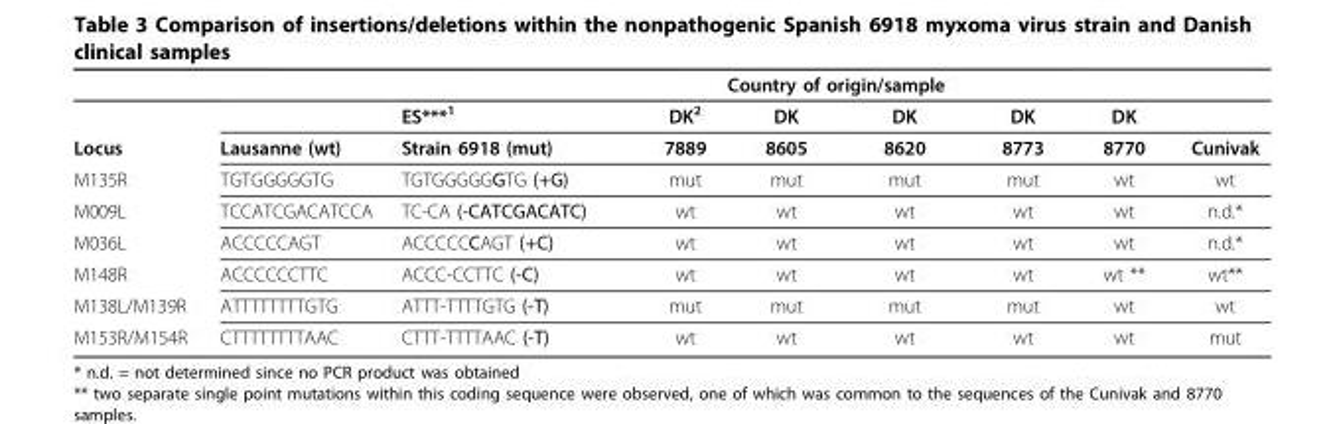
<table><thead><tr><td rowspan="2"></td><td rowspan="2"></td><td colspan="7">Country of origin/sample</td></tr><tr><td>ES***<sup>1</sup></td><td>DK<sup>2</sup></td><td>DK</td><td>DK</td><td>DK</td><td>DK</td><td></td></tr></thead><tbody><tr><td>Locus</td><td>Lausanne (wt)</td><td>Strain 6918 (mut)</td><td>7889</td><td>8605</td><td>8620</td><td>8773</td><td>8770</td><td>Cunivak</td></tr><tr><td>M135R</td><td>TGTGGGGGTG</td><td>TGTGGGGGGTG (+G)</td><td>mut</td><td>mut</td><td>mut</td><td>mut</td><td>wt</td><td>wt</td></tr><tr><td>M009L</td><td>TCCATCGACATCCA</td><td>TC-CA (-CATCGACATC)</td><td>wt</td><td>wt</td><td>wt</td><td>wt</td><td>wt</td><td>n.d.*</td></tr><tr><td>M036L</td><td>ACCCCCAGT</td><td>ACCCCCCAGT (+C)</td><td>wt</td><td>wt</td><td>wt</td><td>wt</td><td>wt</td><td>n.d.*</td></tr><tr><td>M148R</td><td>ACCCCCCTTC</td><td>ACCC-CCTTC (-C)</td><td>wt</td><td>wt</td><td>wt</td><td>wt</td><td>wt **</td><td>wt**</td></tr><tr><td>M138L/M139R</td><td>ATTTTTTTTGTG</td><td>ATTT-TTTTGTG (-T)</td><td>mut</td><td>mut</td><td>mut</td><td>mut</td><td>wt</td><td>wt</td></tr><tr><td>M153R/M154R</td><td>CTTTTTTTTAAC</td><td>CTTT-TTTTAAC (-T)</td><td>wt</td><td>wt</td><td>wt</td><td>wt</td><td>wt</td><td>mut</td></tr></tbody></table>